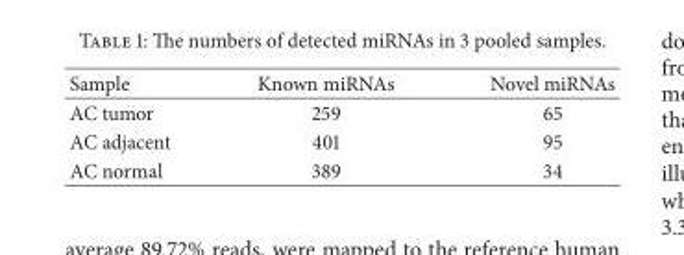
<table><thead><tr><td>Sample</td><td>Known miRNAs</td><td>Novel miRNAs</td></tr></thead><tbody><tr><td>AC tumor</td><td>259</td><td>65</td></tr><tr><td>AC adjacent</td><td>401</td><td>95</td></tr><tr><td>AC normal</td><td>389</td><td>34</td></tr></tbody></table>